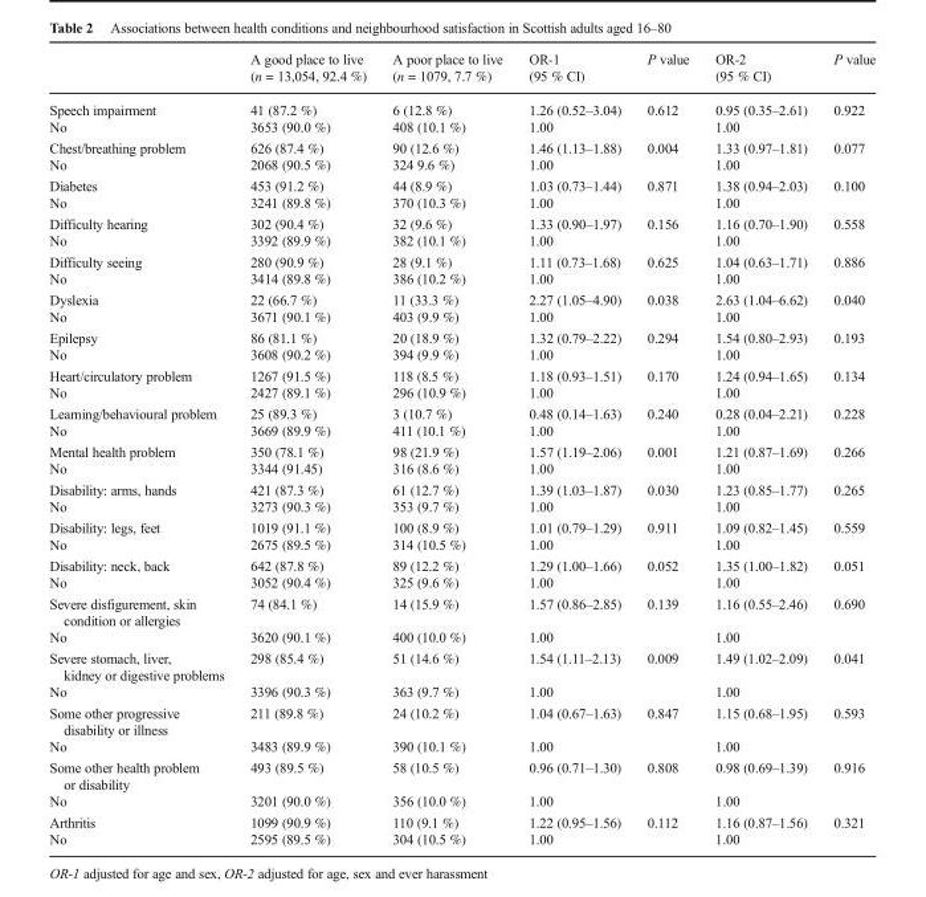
<table><thead><tr><td></td><td>A good place to live (n = 13,054, 92.4 %)</td><td>A poor place to live (n = 1079, 7.7 %)</td><td>OR-1 (95 % CI)</td><td>P value</td><td>OR-2 (95 % CI)</td><td>P value</td></tr></thead><tbody><tr><td>Speech impairment</td><td>41 (87.2 %)</td><td>6 (12.8 %)</td><td>1.26 (0.52–3.04)</td><td rowspan="2">0.612</td><td>0.95 (0.35–2.61)</td><td rowspan="2">0.922</td></tr><tr><td>No</td><td>3653 (90.0 %)</td><td>408 (10.1 %)</td><td>1.00</td><td>1.00</td></tr><tr><td>Chest/breathing problem</td><td>626 (87.4 %)</td><td>90 (12.6 %)</td><td>1.46 (1.13–1.88)</td><td rowspan="2">0.004</td><td>1.33 (0.97–1.81)</td><td rowspan="2">0.077</td></tr><tr><td>No</td><td>2068 (90.5 %)</td><td>324 9.6 %)</td><td>1.00</td><td>1.00</td></tr><tr><td>Diabetes</td><td>453 (91.2 %)</td><td>44 (8.9 %)</td><td>1.03 (0.73–1.44)</td><td rowspan="2">0.871</td><td>1.38 (0.94–2.03)</td><td rowspan="2">0.100</td></tr><tr><td>No</td><td>3241 (89.8 %)</td><td>370 (10.3 %)</td><td>1.00</td><td>1.00</td></tr><tr><td>Difficulty hearing</td><td>302 (90.4 %)</td><td>32 (9.6 %)</td><td>1.33 (0.90–1.97)</td><td rowspan="2">0.156</td><td>1.16 (0.70–1.90)</td><td rowspan="2">0.558</td></tr><tr><td>No</td><td>3392 (89.9 %)</td><td>382 (10.1 %)</td><td>1.00</td><td>1.00</td></tr><tr><td>Difficulty seeing</td><td>280 (90.9 %)</td><td>28 (9.1 %)</td><td>1.11 (0.73–1.68)</td><td rowspan="2">0.625</td><td>1.04 (0.63–1.71)</td><td rowspan="2">0.886</td></tr><tr><td>No</td><td>3414 (89.8 %)</td><td>386 (10.2 %)</td><td>1.00</td><td>1.00</td></tr><tr><td>Dyslexia</td><td>22 (66.7 %)</td><td>11 (33.3 %)</td><td>2.27 (1.05–4.90)</td><td rowspan="2">0.038</td><td>2.63 (1.04–6.62)</td><td rowspan="2">0.040</td></tr><tr><td>No</td><td>3671 (90.1 %)</td><td>403 (9.9 %)</td><td>1.00</td><td>1.00</td></tr><tr><td>Epilepsy</td><td>86 (81.1 %)</td><td>20 (18.9 %)</td><td>1.32 (0.79–2.22)</td><td rowspan="2">0.294</td><td>1.54 (0.80–2.93)</td><td rowspan="2">0.193</td></tr><tr><td>No</td><td>3608 (90.2 %)</td><td>394 (9.9 %)</td><td>1.00</td><td>1.00</td></tr><tr><td>Heart/circulatory problem</td><td>1267 (91.5 %)</td><td>118 (8.5 %)</td><td>1.18 (0.93–1.51)</td><td rowspan="2">0.170</td><td>1.24 (0.94–1.65)</td><td rowspan="2">0.134</td></tr><tr><td>No</td><td>2427 (89.1 %)</td><td>296 (10.9 %)</td><td>1.00</td><td>1.00</td></tr><tr><td>Learning/behavioural problem</td><td>25 (89.3 %)</td><td>3 (10.7 %)</td><td>0.48 (0.14–1.63)</td><td rowspan="2">0.240</td><td>0.28 (0.04–2.21)</td><td rowspan="2">0.228</td></tr><tr><td>No</td><td>3669 (89.9 %)</td><td>411 (10.1 %)</td><td>1.00</td><td>1.00</td></tr><tr><td>Mental health problem</td><td>350 (78.1 %)</td><td>98 (21.9 %)</td><td>1.57 (1.19–2.06)</td><td rowspan="2">0.001</td><td>1.21 (0.87–1.69)</td><td rowspan="2">0.266</td></tr><tr><td>No</td><td>3344 (91.45)</td><td>316 (8.6 %)</td><td>1.00</td><td>1.00</td></tr><tr><td>Disability: arms, hands</td><td>421 (87.3 %)</td><td>61 (12.7 %)</td><td>1.39 (1.03–1.87)</td><td rowspan="2">0.030</td><td>1.23 (0.85–1.77)</td><td rowspan="2">0.265</td></tr><tr><td>No</td><td>3273 (90.3 %)</td><td>353 (9.7 %)</td><td>1.00</td><td>1.00</td></tr><tr><td>Disability: legs, feet</td><td>1019 (91.1 %)</td><td>100 (8.9 %)</td><td>1.01 (0.79–1.29)</td><td rowspan="2">0.911</td><td>1.09 (0.82–1.45)</td><td rowspan="2">0.559</td></tr><tr><td>No</td><td>2675 (89.5 %)</td><td>314 (10.5 %)</td><td>1.00</td><td>1.00</td></tr><tr><td>Disability: neck, back</td><td>642 (87.8 %)</td><td>89 (12.2 %)</td><td>1.29 (1.00–1.66)</td><td rowspan="2">0.052</td><td>1.35 (1.00–1.82)</td><td rowspan="2">0.051</td></tr><tr><td>No</td><td>3052 (90.4 %)</td><td>325 (9.6 %)</td><td>1.00</td><td>1.00</td></tr><tr><td>Severe disfigurement, skin condition or allergies</td><td>74 (84.1 %)</td><td>14 (15.9 %)</td><td>1.57 (0.86–2.85)</td><td rowspan="2">0.139</td><td>1.16 (0.55–2.46)</td><td rowspan="2">0.690</td></tr><tr><td>No</td><td>3620 (90.1 %)</td><td>400 (10.0 %)</td><td>1.00</td><td>1.00</td></tr><tr><td>Severe stomach, liver, kidney or digestive problems</td><td>298 (85.4 %)</td><td>51 (14.6 %)</td><td>1.54 (1.11–2.13)</td><td rowspan="2">0.009</td><td>1.49 (1.02–2.09)</td><td rowspan="2">0.041</td></tr><tr><td>No</td><td>3396 (90.3 %)</td><td>363 (9.7 %)</td><td>1.00</td><td>1.00</td></tr><tr><td>Some other progressive disability or illness</td><td>211 (89.8 %)</td><td>24 (10.2 %)</td><td>1.04 (0.67–1.63)</td><td rowspan="2">0.847</td><td>1.15 (0.68–1.95)</td><td rowspan="2">0.593</td></tr><tr><td>No</td><td>3483 (89.9 %)</td><td>390 (10.1 %)</td><td>1.00</td><td>1.00</td></tr><tr><td>Some other health problem or disability</td><td>493 (89.5 %)</td><td>58 (10.5 %)</td><td>0.96 (0.71–1.30)</td><td rowspan="2">0.808</td><td>0.98 (0.69–1.39)</td><td rowspan="2">0.916</td></tr><tr><td>No</td><td>3201 (90.0 %)</td><td>356 (10.0 %)</td><td>1.00</td><td>1.00</td></tr><tr><td>Arthritis</td><td>1099 (90.9 %)</td><td>110 (9.1 %)</td><td>1.22 (0.95–1.56)</td><td rowspan="2">0.112</td><td>1.16 (0.87–1.56)</td><td rowspan="2">0.321</td></tr><tr><td>No</td><td>2595 (89.5 %)</td><td>304 (10.5 %)</td><td>1.00</td><td>1.00</td></tr></tbody></table>